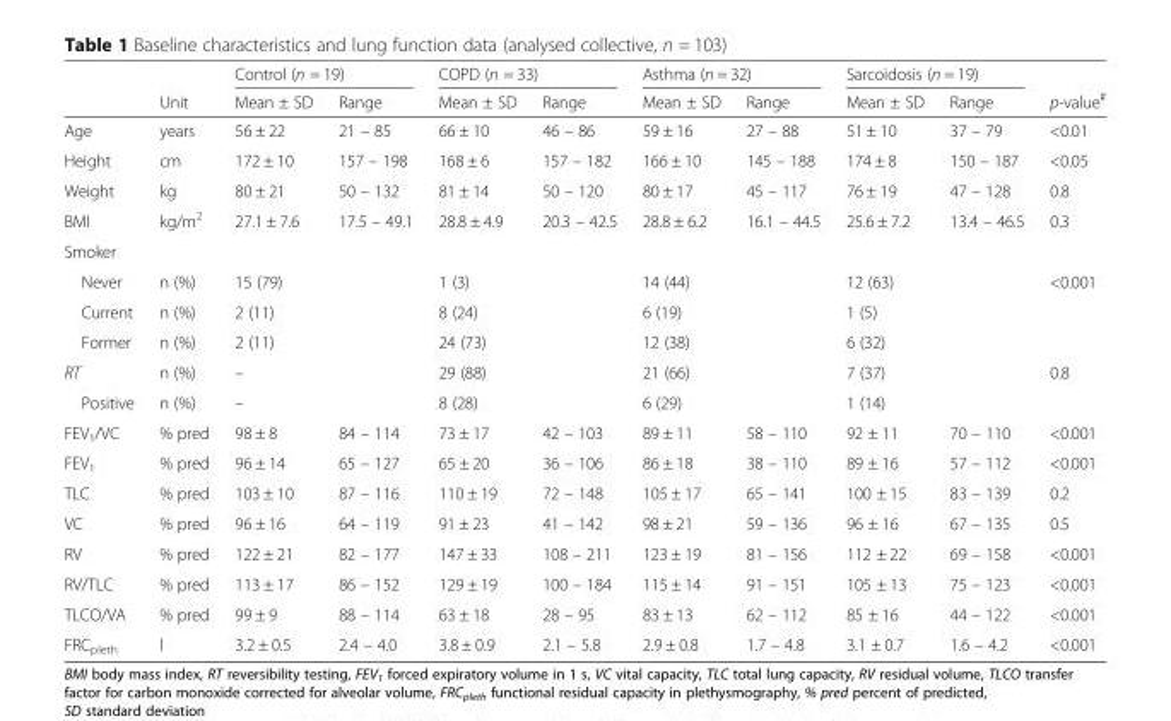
<table><thead><tr><td rowspan="2"></td><td rowspan="2">Unit</td><td colspan="2">Control (n = 19)</td><td colspan="2">COPD (n = 33)</td><td colspan="2">Asthma (n = 32)</td><td colspan="2">Sarcoidosis (n = 19)</td><td rowspan="2">p-value<sup>#</sup></td></tr><tr><td>Mean ± SD</td><td>Range</td><td>Mean ± SD</td><td>Range</td><td>Mean ± SD</td><td>Range</td><td>Mean ± SD</td><td>Range</td></tr></thead><tbody><tr><td>Age</td><td>years</td><td>56 ± 22</td><td>21 – 85</td><td>66 ± 10</td><td>46 – 86</td><td>59 ± 16</td><td>27 – 88</td><td>51 ± 10</td><td>37 – 79</td><td>&lt;0.01</td></tr><tr><td>Height</td><td>cm</td><td>172 ± 10</td><td>157 – 198</td><td>168 ± 6</td><td>157 – 182</td><td>166 ± 10</td><td>145 – 188</td><td>174 ± 8</td><td>150 – 187</td><td>&lt;0.05</td></tr><tr><td>Weight</td><td>kg</td><td>80 ± 21</td><td>50 – 132</td><td>81 ± 14</td><td>50 – 120</td><td>80 ± 17</td><td>45 – 117</td><td>76 ± 19</td><td>47 – 128</td><td>0.8</td></tr><tr><td>BMI</td><td>kg/m<sup>2</sup></td><td>27.1 ± 7.6</td><td>17.5 – 49.1</td><td>28.8 ± 4.9</td><td>20.3 – 42.5</td><td>28.8 ± 6.2</td><td>16.1 – 44.5</td><td>25.6 ± 7.2</td><td>13.4 – 46.5</td><td>0.3</td></tr><tr><td colspan="11">Smoker</td></tr><tr><td>Never</td><td>n (%)</td><td>15 (79)</td><td></td><td>1 (3)</td><td></td><td>14 (44)</td><td></td><td>12 (63)</td><td></td><td rowspan="3">&lt;0.001</td></tr><tr><td>Current</td><td>n (%)</td><td>2 (11)</td><td></td><td>8 (24)</td><td></td><td>6 (19)</td><td></td><td>1 (5)</td><td></td></tr><tr><td>Former</td><td>n (%)</td><td>2 (11)</td><td></td><td>24 (73)</td><td></td><td>12 (38)</td><td></td><td>6 (32)</td><td></td></tr><tr><td>RT</td><td>n (%)</td><td>–</td><td></td><td>29 (88)</td><td></td><td>21 (66)</td><td></td><td>7 (37)</td><td></td><td rowspan="2">0.8</td></tr><tr><td>Positive</td><td>n (%)</td><td>–</td><td></td><td>8 (28)</td><td></td><td>6 (29)</td><td></td><td>1 (14)</td><td></td></tr><tr><td>FEV<sub>1</sub>/VC</td><td>% pred</td><td>98 ± 8</td><td>84 – 114</td><td>73 ± 17</td><td>42 – 103</td><td>89 ± 11</td><td>58 – 110</td><td>92 ± 11</td><td>70 – 110</td><td>&lt;0.001</td></tr><tr><td>FEV<sub>1</sub></td><td>% pred</td><td>96 ± 14</td><td>65 – 127</td><td>65 ± 20</td><td>36 – 106</td><td>86 ± 18</td><td>38 – 110</td><td>89 ± 16</td><td>57 – 112</td><td>&lt;0.001</td></tr><tr><td>TLC</td><td>% pred</td><td>103 ± 10</td><td>87 – 116</td><td>110 ± 19</td><td>72 – 148</td><td>105 ± 17</td><td>65 – 141</td><td>100 ± 15</td><td>83 – 139</td><td>0.2</td></tr><tr><td>VC</td><td>% pred</td><td>96 ± 16</td><td>64 – 119</td><td>91 ± 23</td><td>41 – 142</td><td>98 ± 21</td><td>59 – 136</td><td>96 ± 16</td><td>67 – 135</td><td>0.5</td></tr><tr><td>RV</td><td>% pred</td><td>122 ± 21</td><td>82 – 177</td><td>147 ± 33</td><td>108 – 211</td><td>123 ± 19</td><td>81 – 156</td><td>112 ± 22</td><td>69 – 158</td><td>&lt;0.001</td></tr><tr><td>RV/TLC</td><td>% pred</td><td>113 ± 17</td><td>86 – 152</td><td>129 ± 19</td><td>100 – 184</td><td>115 ± 14</td><td>91 – 151</td><td>105 ± 13</td><td>75 – 123</td><td>&lt;0.001</td></tr><tr><td>TLCO/VA</td><td>% pred</td><td>99 ± 9</td><td>88 – 114</td><td>63 ± 18</td><td>28 – 95</td><td>83 ± 13</td><td>62 – 112</td><td>85 ± 16</td><td>44 – 122</td><td>&lt;0.001</td></tr><tr><td>FRC<sub>pleth</sub></td><td>l</td><td>3.2 ± 0.5</td><td>2.4 – 4.0</td><td>3.8 ± 0.9</td><td>2.1 – 5.8</td><td>2.9 ± 0.8</td><td>1.7 – 4.8</td><td>3.1 ± 0.7</td><td>1.6 – 4.2</td><td>&lt;0.001</td></tr></tbody></table>